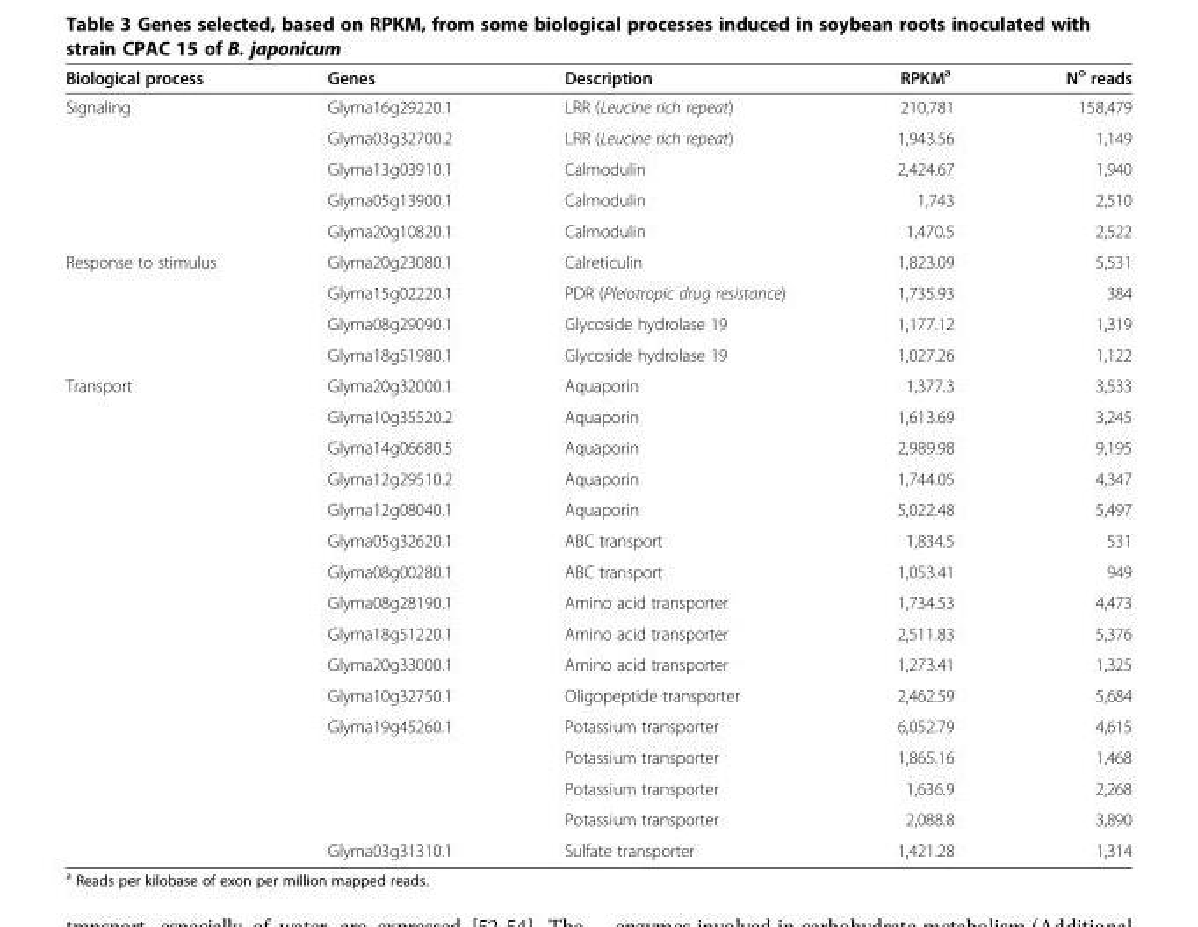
<table><thead><tr><td>Biological process</td><td>Genes</td><td>Description</td><td>RPKM<sup>a</sup></td><td>N<sup>o</sup> reads</td></tr></thead><tbody><tr><td rowspan="5">Signaling</td><td>Glyma16g29220.1</td><td>LRR (Leucine rich repeat)</td><td>210,781</td><td>158,479</td></tr><tr><td>Glyma03g32700.2</td><td>LRR (Leucine rich repeat)</td><td>1,943.56</td><td>1,149</td></tr><tr><td>Glyma13g03910.1</td><td>Calmodulin</td><td>2,424.67</td><td>1,940</td></tr><tr><td>Glyma05g13900.1</td><td>Calmodulin</td><td>1,743</td><td>2,510</td></tr><tr><td>Glyma20g10820.1</td><td>Calmodulin</td><td>1,470.5</td><td>2,522</td></tr><tr><td rowspan="4">Response to stimulus</td><td>Glyma20g23080.1</td><td>Calreticulin</td><td>1,823.09</td><td>5,531</td></tr><tr><td>Glyma15g02220.1</td><td>PDR (Pleiotropic drug resistance)</td><td>1,735.93</td><td>384</td></tr><tr><td>Glyma08g29090.1</td><td>Glycoside hydrolase 19</td><td>1,177.12</td><td>1,319</td></tr><tr><td>Glyma18g51980.1</td><td>Glycoside hydrolase 19</td><td>1,027.26</td><td>1,122</td></tr><tr><td rowspan="16">Transport</td><td>Glyma20g32000.1</td><td>Aquaporin</td><td>1,377.3</td><td>3,533</td></tr><tr><td>Glyma10g35520.2</td><td>Aquaporin</td><td>1,613.69</td><td>3,245</td></tr><tr><td>Glyma14g06680.5</td><td>Aquaporin</td><td>2,989.98</td><td>9,195</td></tr><tr><td>Glyma12g29510.2</td><td>Aquaporin</td><td>1,744.05</td><td>4,347</td></tr><tr><td>Glyma12g08040.1</td><td>Aquaporin</td><td>5,022.48</td><td>5,497</td></tr><tr><td>Glyma05g32620.1</td><td>ABC transport</td><td>1,834.5</td><td>531</td></tr><tr><td>Glyma08g00280.1</td><td>ABC transport</td><td>1,053.41</td><td>949</td></tr><tr><td>Glyma08g28190.1</td><td>Amino acid transporter</td><td>1,734.53</td><td>4,473</td></tr><tr><td>Glyma18g51220.1</td><td>Amino acid transporter</td><td>2,511.83</td><td>5,376</td></tr><tr><td>Glyma20g33000.1</td><td>Amino acid transporter</td><td>1,273.41</td><td>1,325</td></tr><tr><td>Glyma10g32750.1</td><td>Oligopeptide transporter</td><td>2,462.59</td><td>5,684</td></tr><tr><td rowspan="4">Glyma19g45260.1</td><td>Potassium transporter</td><td>6,052.79</td><td>4,615</td></tr><tr><td>Potassium transporter</td><td>1,865.16</td><td>1,468</td></tr><tr><td>Potassium transporter</td><td>1,636.9</td><td>2,268</td></tr><tr><td>Potassium transporter</td><td>2,088.8</td><td>3,890</td></tr><tr><td>Glyma03g31310.1</td><td>Sulfate transporter</td><td>1,421.28</td><td>1,314</td></tr></tbody></table>